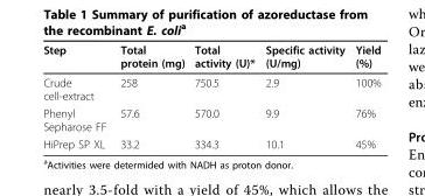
<table><thead><tr><td>Step</td><td>Total protein (mg)</td><td>Total activity (U)*</td><td>Specific activity (U/mg)</td><td>Yield (%)</td></tr></thead><tbody><tr><td>Crude cell-extract</td><td>258</td><td>750.5</td><td>2.9</td><td>100%</td></tr><tr><td>Phenyl Sepharose FF</td><td>57.6</td><td>570.0</td><td>9.9</td><td>76%</td></tr><tr><td>HiPrep SP XL</td><td>33.2</td><td>334.3</td><td>10.1</td><td>45%</td></tr></tbody></table>